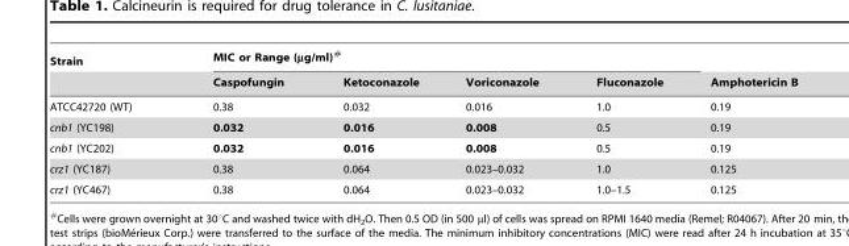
<table><thead><tr><td rowspan="2">Strain</td><td colspan="4">MIC or Range (µµg/ml)#</td><td rowspan="2">Amphotericin B</td></tr><tr><td>Caspofungin</td><td>Ketoconazole</td><td>Voriconazole</td><td>Fluconazole</td></tr></thead><tbody><tr><td>ATCC42720 (WT)</td><td>0.38</td><td>0.032</td><td>0.016</td><td>1.0</td><td>0.19</td></tr><tr><td>cnb1 (YC198)</td><td>0.032</td><td>0.016</td><td>0.008</td><td>0.5</td><td>0.19</td></tr><tr><td>cnb1 (YC202)</td><td>0.032</td><td>0.016</td><td>0.008</td><td>0.5</td><td>0.19</td></tr><tr><td>crz1 (YC187)</td><td>0.38</td><td>0.064</td><td>0.023–0.032</td><td>1.0</td><td>0.125</td></tr><tr><td>crz1 (YC467)</td><td>0.38</td><td>0.064</td><td>0.023–0.032</td><td>1.0–1.5</td><td>0.125</td></tr></tbody></table>